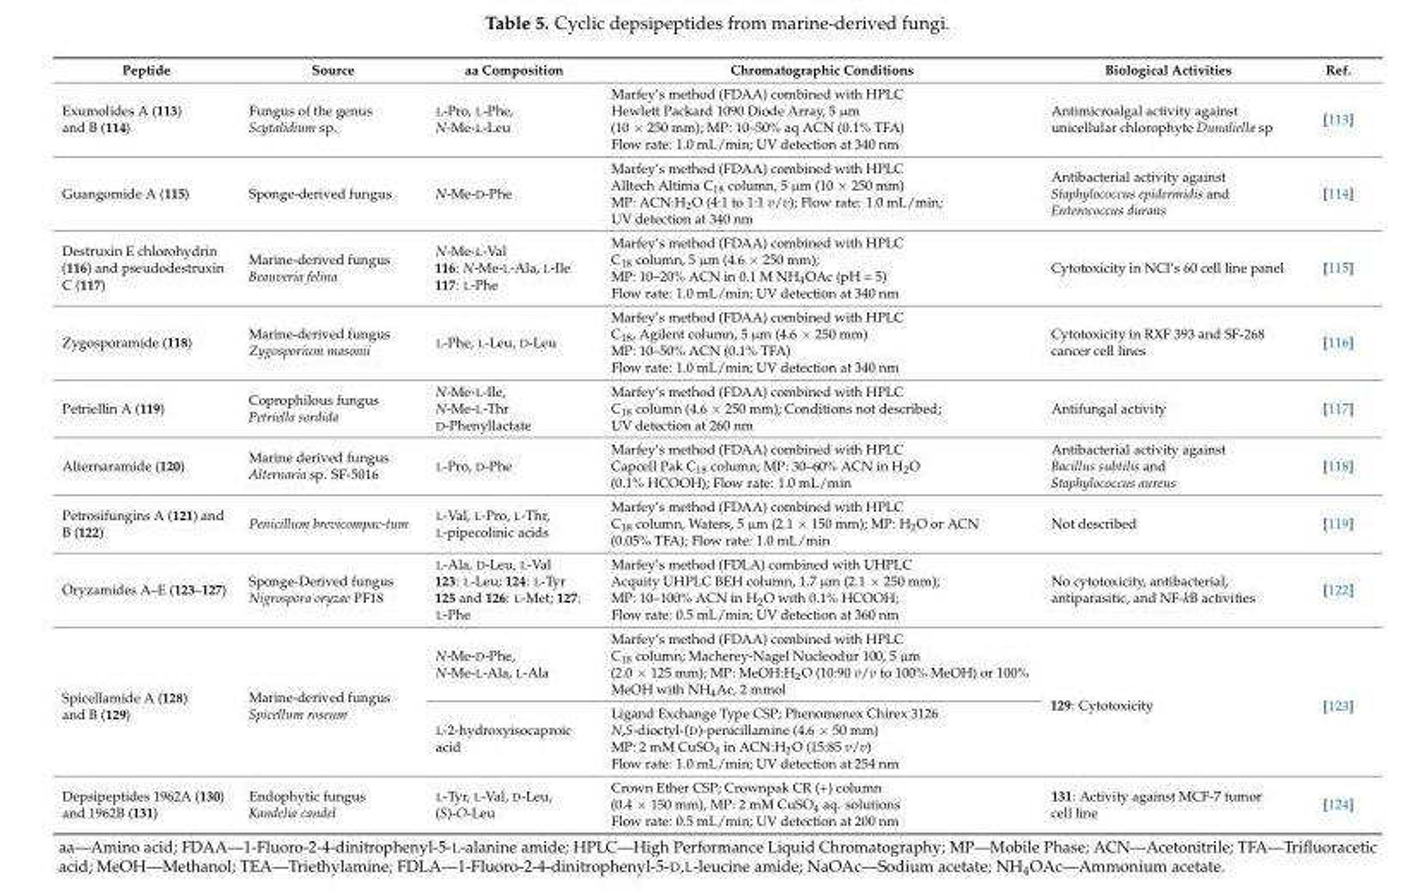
<table><thead><tr><td>Peptide</td><td>Source</td><td>aa Composition</td><td>Chromatographic Conditions</td><td>Biological Activities</td><td>Ref.</td></tr></thead><tbody><tr><td>Exumolides A (113) and B (114)</td><td>Fungus of the genus Scytalidium sp.</td><td>L-Pro, L-Phe, N-Me-L-Leu</td><td>Marfey’s method (FDAA) combined with HPLC Hewlett Packard 1090 Diode Array, 5 µm (10 × 250 mm); MP: 10–50% aq ACN (0.1% TFA) Flow rate: 1.0 mL/min; UV detection at 340 nm</td><td>Antimicroalgal activity against unicellular chlorophyte Dunaliella sp</td><td>[113]</td></tr><tr><td>Guangomide A (115)</td><td>Sponge-derived fungus</td><td>N-Me-D-Phe</td><td>Marfey’s method (FDAA) combined with HPLC Alltech Altima C<sub>18</sub> column, 5 µm (10 × 250 mm) MP: ACN:H<sub>2</sub>O (4:1 to 1:1 v/v); Flow rate: 1.0 mL/min; UV detection at 340 nm</td><td>Antibacterial activity against Staphylococcus epidermidis and Enterococcus durans</td><td>[114]</td></tr><tr><td>Destruxin E chlorohydrin (116) and pseudodestruxin C (117)</td><td>Marine-derived fungus Beauveria felina</td><td>N-Me-L-Val 116: N-Me-L-Ala, L-Ile 117: L-Phe</td><td>Marfey’s method (FDAA) combined with HPLC C<sub>18</sub> column, 5 µm (4.6 × 250 mm); MP: 10–20% ACN in 0.1 M NH<sub>4</sub>OAc (pH = 5) Flow rate: 1.0 mL/min; UV detection at 340 nm</td><td>Cytotoxicity in NCI’s 60 cell line panel</td><td>[115]</td></tr><tr><td>Zygosporamide (118)</td><td>Marine-derived fungus Zygosporium masonii</td><td>L-Phe, L-Leu, D-Leu</td><td>Marfey’s method (FDAA) combined with HPLC C<sub>18</sub>, Agilent column, 5 µm (4.6 × 250 mm) MP: 10–50% ACN (0.1% TFA) Flow rate: 1.0 mL/min; UV detection at 340 nm</td><td>Cytotoxicity in RXF 393 and SF-268 cancer cell lines</td><td>[116]</td></tr><tr><td>Petriellin A (119)</td><td>Coprophilous fungus Petriella sordida</td><td>N-Me-L-Ile, N-Me-L-Thr D-Phenyllactate</td><td>Marfey’s method (FDAA) combined with HPLC C<sub>18</sub> column (4.6 × 250 mm); Conditions not described; UV detection at 260 nm</td><td>Antifungal activity</td><td>[117]</td></tr><tr><td>Alternaramide (120)</td><td>Marine derived fungus Alternaria sp. SF-5016</td><td>L-Pro, D-Phe</td><td>Marfey’s method (FDAA) combined with HPLC Capcell Pak C<sub>18</sub> column; MP: 30–60% ACN in H<sub>2</sub>O (0.1% HCOOH); Flow rate: 1.0 mL/min</td><td>Antibacterial activity against Bacillus subtilis and Staphylococcus aureus</td><td>[118]</td></tr><tr><td>Petrosifungins A (121) and B (122)</td><td>Penicillum brevicompac-tum</td><td>L-Val, L-Pro, L-Thr, L-pipecolinic acids</td><td>Marfey’s method (FDAA) combined with HPLC C<sub>18</sub> column, Waters, 5 µm (2.1 × 150 mm); MP: H<sub>2</sub>O or ACN (0.05% TFA); Flow rate: 1.0 mL/min</td><td>Not described</td><td>[119]</td></tr><tr><td>Oryzamides A–E (123–127)</td><td>Sponge-Derived fungus Nigrospora oryzae PF18</td><td>L-Ala, D-Leu, L-Val 123: L-Leu; 124: L-Tyr 125 and 126: L-Met; 127: L-Phe</td><td>Marfey’s method (FDLA) combined with UHPLC Acquity UHPLC BEH column, 1.7 µm (2.1 × 250 mm); MP: 10–100% ACN in H<sub>2</sub>O with 0.1% HCOOH; Flow rate: 0.5 mL/min; UV detection at 360 nm</td><td>No cytotoxicity, antibacterial, antiparasitic, and NF-kB activities</td><td>[122]</td></tr><tr><td rowspan="2">Spicellamide A (128) and B (129)</td><td rowspan="2">Marine-derived fungus Spicellum roseum</td><td>N-Me-D-Phe, N-Me-L-Ala, L-Ala</td><td>Marfey’s method (FDAA) combined with HPLC C<sub>18</sub> column; Macherey-Nagel Nucleodur 100, 5 µm (2.0 × 125 mm); MP: MeOH:H<sub>2</sub>O (10:90 v/v to 100% MeOH) or 100% MeOH with NH<sub>4</sub>Ac, 2 mmol</td><td rowspan="2">129: Cytotoxicity</td><td rowspan="2">[123]</td></tr><tr><td>L-2-hydroxyisocaproic acid</td><td>Ligand Exchange Type CSP; Phenomenex Chirex 3126 N,S-dioctyl-(D)-penicillamine (4.6 × 50 mm) MP: 2 mM CuSO<sub>4</sub> in ACN:H<sub>2</sub>O (15:85 v/v) Flow rate: 1.0 mL/min; UV detection at 254 nm</td></tr><tr><td>Depsipeptides 1962A (130) and 1962B (131)</td><td>Endophytic fungus Kandelia candel</td><td>L-Tyr, L-Val, D-Leu, (S)-O-Leu</td><td>Crown Ether CSP; Crownpak CR (+) column (0.4 × 150 mm), MP: 2 mM CuSO<sub>4</sub> aq. solutions Flow rate: 0.5 mL/min; UV detection at 200 nm</td><td>131: Activity against MCF-7 tumor cell line</td><td>[124]</td></tr></tbody></table>